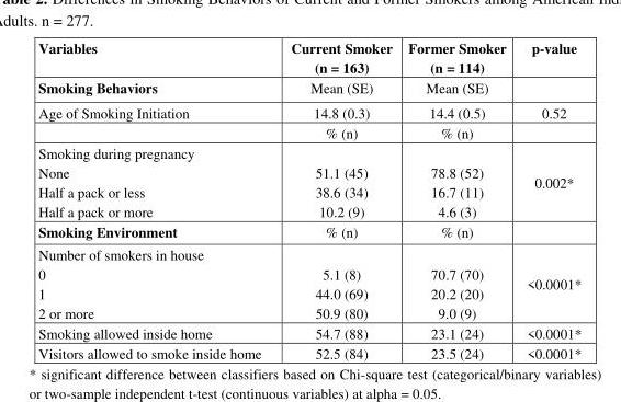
<table><thead><tr><td>Variables</td><td>Current Smoker (n = 163)</td><td>Former Smoker (n = 114)</td><td>p-value</td></tr></thead><tbody><tr><td>Smoking Behaviors</td><td>Mean (SE)</td><td>Mean (SE)</td><td></td></tr><tr><td rowspan="2">Age of Smoking Initiation</td><td>14.8 (0.3)</td><td>14.4 (0.5)</td><td>0.52</td></tr><tr><td>% (n)</td><td>% (n)</td><td></td></tr><tr><td>Smoking during pregnancy None Half a pack or less Half a pack or more</td><td>51.1 (45) 38.6 (34) 10.2 (9)</td><td>78.8 (52) 16.7 (11) 4.6 (3)</td><td>0.002*</td></tr><tr><td>Smoking Environment</td><td>% (n)</td><td>% (n)</td><td></td></tr><tr><td>Number of smokers in house 0 1 2 or more</td><td>5.1 (8) 44.0 (69) 50.9 (80)</td><td>70.7 (70) 20.2 (20) 9.0 (9)</td><td>&lt;0.0001*</td></tr><tr><td>Smoking allowed inside home</td><td>54.7 (88)</td><td>23.1 (24)</td><td>&lt;0.0001*</td></tr><tr><td>Visitors allowed to smoke inside home</td><td>52.5 (84)</td><td>23.5 (24)</td><td>&lt;0.0001*</td></tr></tbody></table>